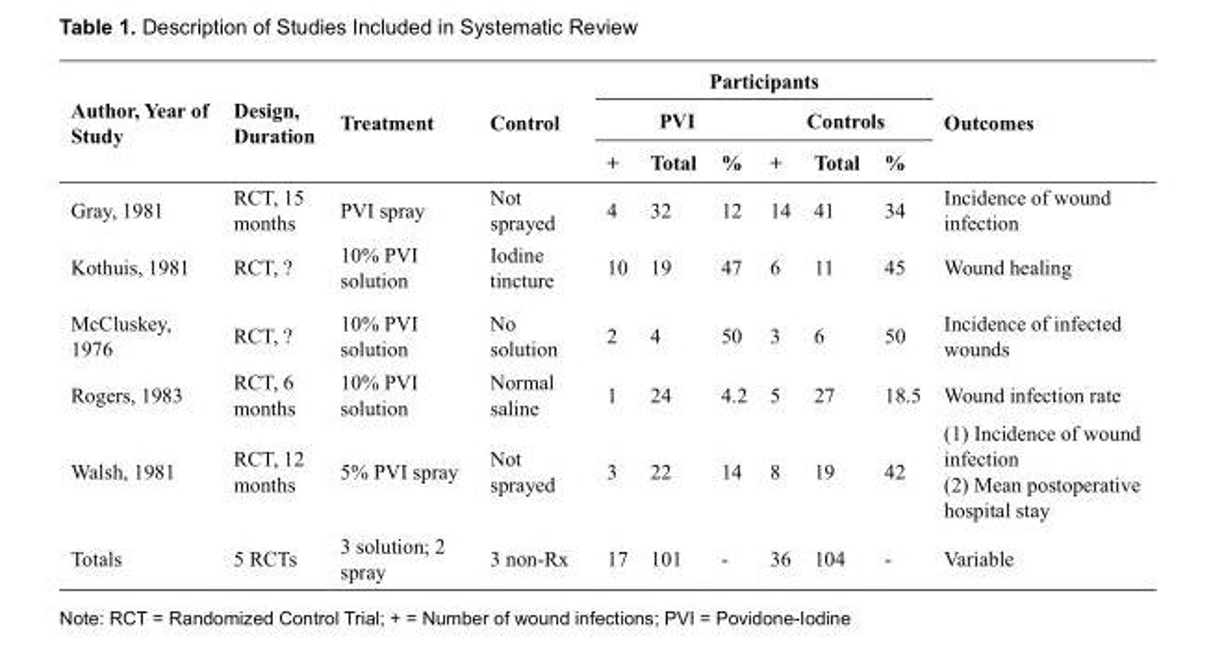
<table><thead><tr><td rowspan="3">Author, Year of Study</td><td rowspan="3">Design, Duration</td><td rowspan="3">Treatment</td><td rowspan="3">Control</td><td colspan="6">Participants</td><td rowspan="3">Outcomes</td></tr><tr><td colspan="3">PVI</td><td colspan="3">Controls</td></tr><tr><td>+</td><td>Total</td><td>%</td><td>+</td><td>Total</td><td>%</td></tr></thead><tbody><tr><td>Gray, 1981</td><td>RCT, 15 months</td><td>PVI spray</td><td>Not sprayed</td><td>4</td><td>32</td><td>12</td><td>14</td><td>41</td><td>34</td><td>Incidence of wound infection</td></tr><tr><td>Kothuis, 1981</td><td>RCT, ?</td><td>10% PVI solution</td><td>Iodine tincture</td><td>10</td><td>19</td><td>47</td><td>6</td><td>11</td><td>45</td><td>Wound healing</td></tr><tr><td>McCluskey, 1976</td><td>RCT, ?</td><td>10% PVI solution</td><td>No solution</td><td>2</td><td>4</td><td>50</td><td>3</td><td>6</td><td>50</td><td>Incidence of infected wounds</td></tr><tr><td>Rogers, 1983</td><td>RCT, 6 months</td><td>10% PVI solution</td><td>Normal saline</td><td>1</td><td>24</td><td>4.2</td><td>5</td><td>27</td><td>18.5</td><td>Wound infection rate</td></tr><tr><td>Walsh, 1981</td><td>RCT, 12 months</td><td>5% PVI spray</td><td>Not sprayed</td><td>3</td><td>22</td><td>14</td><td>8</td><td>19</td><td>42</td><td>(1) Incidence of wound infection (2) Mean postoperative hospital stay</td></tr><tr><td>Totals</td><td>5 RCTs</td><td>3 solution; 2 spray</td><td>3 non-Rx</td><td>17</td><td>101</td><td>-</td><td>36</td><td>104</td><td>-</td><td>Variable</td></tr></tbody></table>